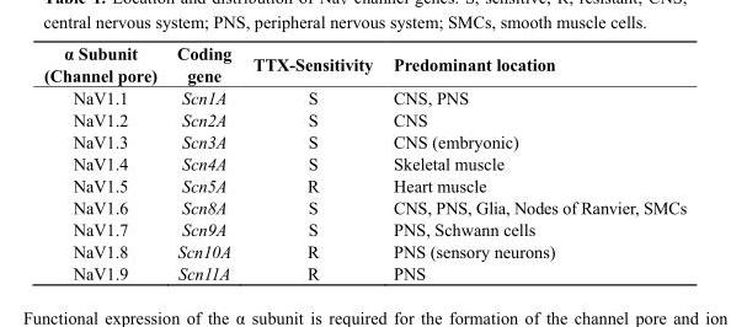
<table><thead><tr><td>α Subunit (Channel pore)</td><td>Coding gene</td><td>TTX-Sensitivity</td><td>Predominant location</td></tr></thead><tbody><tr><td>NaV1.1</td><td>Scn1A</td><td>S</td><td>CNS, PNS</td></tr><tr><td>NaV1.2</td><td>Scn2A</td><td>S</td><td>CNS</td></tr><tr><td>NaV1.3</td><td>Scn3A</td><td>S</td><td>CNS (embryonic)</td></tr><tr><td>NaV1.4</td><td>Scn4A</td><td>S</td><td>Skeletal muscle</td></tr><tr><td>NaV1.5</td><td>Scn5A</td><td>R</td><td>Heart muscle</td></tr><tr><td>NaV1.6</td><td>Scn8A</td><td>S</td><td>CNS, PNS, Glia, Nodes of Ranvier, SMCs</td></tr><tr><td>NaV1.7</td><td>Scn9A</td><td>S</td><td>PNS, Schwann cells</td></tr><tr><td>NaV1.8</td><td>Scn10A</td><td>R</td><td>PNS (sensory neurons)</td></tr><tr><td>NaV1.9</td><td>Scn11A</td><td>R</td><td>PNS</td></tr></tbody></table>